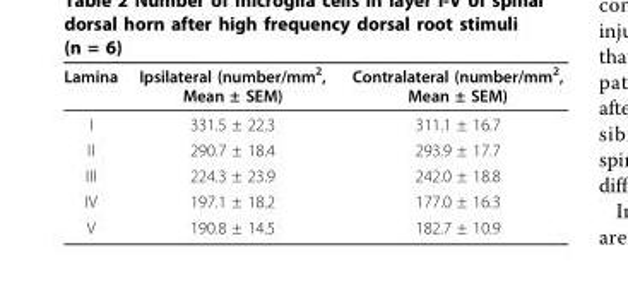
<table><thead><tr><td>Lamina</td><td>Ipsilateral (number/mm<sup>2</sup>, Mean ± SEM)</td><td>Contralateral (number/mm<sup>2</sup>, Mean ± SEM)</td></tr></thead><tbody><tr><td>I</td><td>331.5 ± 22.3</td><td>311.1 ± 16.7</td></tr><tr><td>II</td><td>290.7 ± 18.4</td><td>293.9 ± 17.7</td></tr><tr><td>III</td><td>224.3 ± 23.9</td><td>242.0 ± 18.8</td></tr><tr><td>IV</td><td>197.1 ± 18.2</td><td>177.0 ± 16.3</td></tr><tr><td>V</td><td>190.8 ± 14.5</td><td>182.7 ± 10.9</td></tr></tbody></table>